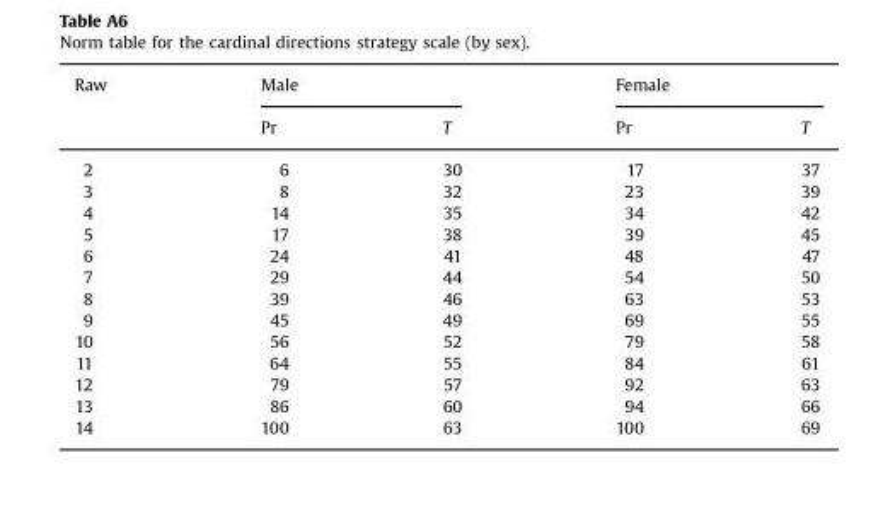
<table><thead><tr><td rowspan="2">Raw</td><td colspan="2">Male</td><td colspan="2">Female</td></tr><tr><td>Pr</td><td>T</td><td>Pr</td><td>T</td></tr></thead><tbody><tr><td>2</td><td>6</td><td>30</td><td>17</td><td>37</td></tr><tr><td>3</td><td>8</td><td>32</td><td>23</td><td>39</td></tr><tr><td>4</td><td>14</td><td>35</td><td>34</td><td>42</td></tr><tr><td>5</td><td>17</td><td>38</td><td>39</td><td>45</td></tr><tr><td>6</td><td>24</td><td>41</td><td>48</td><td>47</td></tr><tr><td>7</td><td>29</td><td>44</td><td>54</td><td>50</td></tr><tr><td>8</td><td>39</td><td>46</td><td>63</td><td>53</td></tr><tr><td>9</td><td>45</td><td>49</td><td>69</td><td>55</td></tr><tr><td>10</td><td>56</td><td>52</td><td>79</td><td>58</td></tr><tr><td>11</td><td>64</td><td>55</td><td>84</td><td>61</td></tr><tr><td>12</td><td>79</td><td>57</td><td>92</td><td>63</td></tr><tr><td>13</td><td>86</td><td>60</td><td>94</td><td>66</td></tr><tr><td>14</td><td>100</td><td>63</td><td>100</td><td>69</td></tr></tbody></table>